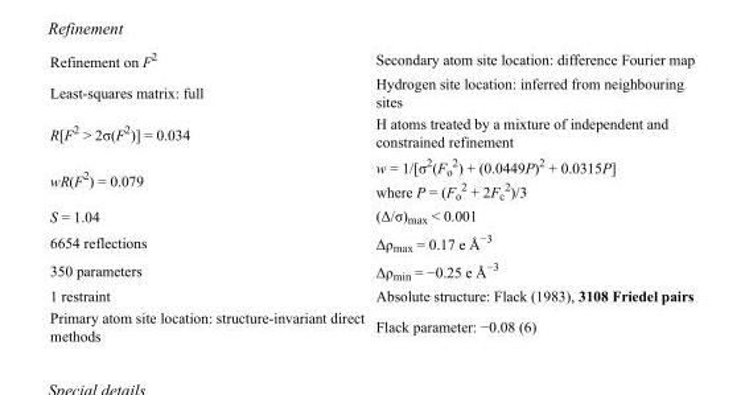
<table><tbody><tr><td>Refinement on F<sup>2</sup></td><td>Secondary atom site location: difference Fourier map</td></tr><tr><td>Least-squares matrix: full</td><td>Hydrogen site location: inferred from neighbouring sites</td></tr><tr><td>R[F<sup>2</sup> &gt; 2σ(F<sup>2</sup>)] = 0.034</td><td>H atoms treated by a mixture of independent and constrained refinement</td></tr><tr><td>wR(F<sup>2</sup>) = 0.079</td><td>w = 1/[σ<sup>2</sup>(F<sub>o</sub> <sup>2</sup>) + (0.0449P)<sup>2</sup> + 0.0315P] where P = (F<sub>o</sub> <sup>2</sup> + 2F<sub>c</sub> <sup>2</sup>)/3</td></tr><tr><td>S = 1.04</td><td>(Δ/σ)<sub>max</sub> &lt; 0.001</td></tr><tr><td>6654 reflections</td><td>Δρ<sub>max</sub> = 0.17 e Å<sup>−3</sup></td></tr><tr><td>350 parameters</td><td>Δρ<sub>min</sub> = −0.25 e Å<sup>−3</sup></td></tr><tr><td>1 restraint</td><td>Absolute structure: Flack (1983), 3108 Friedel pairs</td></tr><tr><td>Primary atom site location: structure-invariant direct methods</td><td>Flack parameter: −0.08 (6)</td></tr></tbody></table>